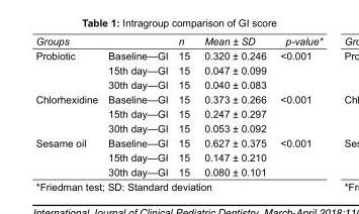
<table><tbody><tr><td>Groups</td><td></td><td>n</td><td>Mean ± SD</td><td>p-value*</td></tr><tr><td rowspan="3">Probiotic</td><td>Baseline—GI</td><td>15</td><td>0.320 ± 0.246</td><td>&lt;0.001</td></tr><tr><td>15th day—GI</td><td>15</td><td>0.047 ± 0.099</td><td></td></tr><tr><td>30th day—GI</td><td>15</td><td>0.040 ± 0.083</td><td></td></tr><tr><td rowspan="3">Chlorhexidine</td><td>Baseline—GI</td><td>15</td><td>0.373 ± 0.266</td><td>&lt;0.001</td></tr><tr><td>15th day—GI</td><td>15</td><td>0.247 ± 0.297</td><td></td></tr><tr><td>30th day—GI</td><td>15</td><td>0.053 ± 0.092</td><td></td></tr><tr><td rowspan="3">Sesame oil</td><td>Baseline—GI</td><td>15</td><td>0.627 ± 0.375</td><td>&lt;0.001</td></tr><tr><td>15th day—GI</td><td>15</td><td>0.147 ± 0.210</td><td></td></tr><tr><td>30th day—GI</td><td>15</td><td>0.080 ± 0.101</td><td></td></tr></tbody></table>